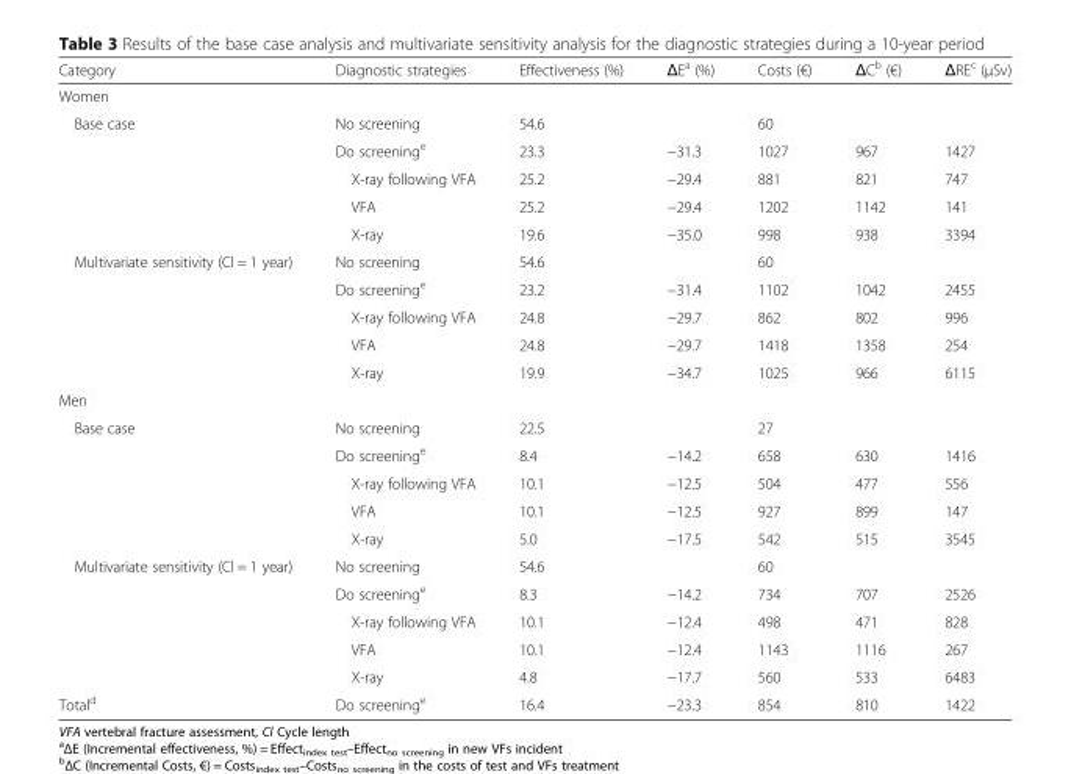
<table><thead><tr><td>Category</td><td>Diagnostic strategies</td><td>Effectiveness (%)</td><td>ΔE<sup>a</sup> (%)</td><td>Costs (€)</td><td>ΔC<sup>b</sup> (€)</td><td>ΔRE<sup>c</sup> (μSv)</td></tr></thead><tbody><tr><td colspan="7">Women</td></tr><tr><td rowspan="5">Base case</td><td>No screening</td><td>54.6</td><td></td><td>60</td><td></td><td></td></tr><tr><td>Do screening<sup>e</sup></td><td>23.3</td><td>−31.3</td><td>1027</td><td>967</td><td>1427</td></tr><tr><td>X-ray following VFA</td><td>25.2</td><td>−29.4</td><td>881</td><td>821</td><td>747</td></tr><tr><td>VFA</td><td>25.2</td><td>−29.4</td><td>1202</td><td>1142</td><td>141</td></tr><tr><td>X-ray</td><td>19.6</td><td>−35.0</td><td>998</td><td>938</td><td>3394</td></tr><tr><td rowspan="5">Multivariate sensitivity (Cl = 1 year)</td><td>No screening</td><td>54.6</td><td></td><td>60</td><td></td><td></td></tr><tr><td>Do screening<sup>e</sup></td><td>23.2</td><td>−31.4</td><td>1102</td><td>1042</td><td>2455</td></tr><tr><td>X-ray following VFA</td><td>24.8</td><td>−29.7</td><td>862</td><td>802</td><td>996</td></tr><tr><td>VFA</td><td>24.8</td><td>−29.7</td><td>1418</td><td>1358</td><td>254</td></tr><tr><td>X-ray</td><td>19.9</td><td>−34.7</td><td>1025</td><td>966</td><td>6115</td></tr><tr><td colspan="7">Men</td></tr><tr><td rowspan="5">Base case</td><td>No screening</td><td>22.5</td><td></td><td>27</td><td></td><td></td></tr><tr><td>Do screening<sup>e</sup></td><td>8.4</td><td>−14.2</td><td>658</td><td>630</td><td>1416</td></tr><tr><td>X-ray following VFA</td><td>10.1</td><td>−12.5</td><td>504</td><td>477</td><td>556</td></tr><tr><td>VFA</td><td>10.1</td><td>−12.5</td><td>927</td><td>899</td><td>147</td></tr><tr><td>X-ray</td><td>5.0</td><td>−17.5</td><td>542</td><td>515</td><td>3545</td></tr><tr><td rowspan="5">Multivariate sensitivity (Cl = 1 year)</td><td>No screening</td><td>54.6</td><td></td><td>60</td><td></td><td></td></tr><tr><td>Do screening<sup>e</sup></td><td>8.3</td><td>−14.2</td><td>734</td><td>707</td><td>2526</td></tr><tr><td>X-ray following VFA</td><td>10.1</td><td>−12.4</td><td>498</td><td>471</td><td>828</td></tr><tr><td>VFA</td><td>10.1</td><td>−12.4</td><td>1143</td><td>1116</td><td>267</td></tr><tr><td>X-ray</td><td>4.8</td><td>−17.7</td><td>560</td><td>533</td><td>6483</td></tr><tr><td>Total<sup>d</sup></td><td>Do screening<sup>e</sup></td><td>16.4</td><td>−23.3</td><td>854</td><td>810</td><td>1422</td></tr></tbody></table>